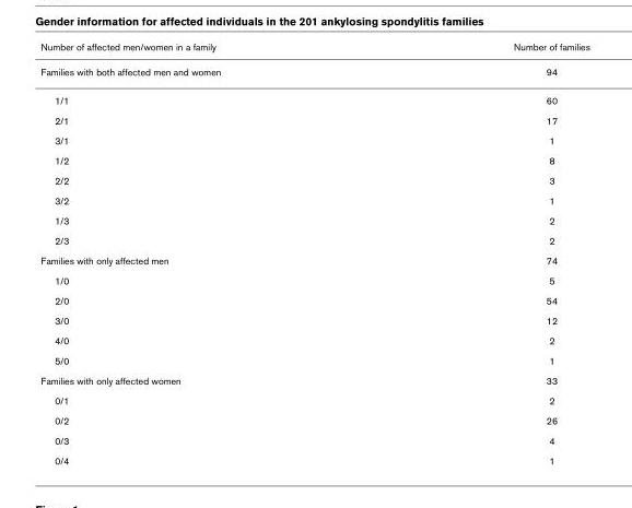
<table><thead><tr><td>Number of affected men/women in a family</td><td>Number of families</td></tr></thead><tbody><tr><td>Families with both affected men and women</td><td>94</td></tr><tr><td>1/1</td><td>60</td></tr><tr><td>2/1</td><td>17</td></tr><tr><td>3/1</td><td>1</td></tr><tr><td>1/2</td><td>8</td></tr><tr><td>2/2</td><td>3</td></tr><tr><td>3/2</td><td>1</td></tr><tr><td>1/3</td><td>2</td></tr><tr><td>2/3</td><td>2</td></tr><tr><td>Families with only affected men</td><td>74</td></tr><tr><td>1/0</td><td>5</td></tr><tr><td>2/0</td><td>54</td></tr><tr><td>3/0</td><td>12</td></tr><tr><td>4/0</td><td>2</td></tr><tr><td>5/0</td><td>1</td></tr><tr><td>Families with only affected women</td><td>33</td></tr><tr><td>0/1</td><td>2</td></tr><tr><td>0/2</td><td>26</td></tr><tr><td>0/3</td><td>4</td></tr><tr><td>0/4</td><td>1</td></tr></tbody></table>